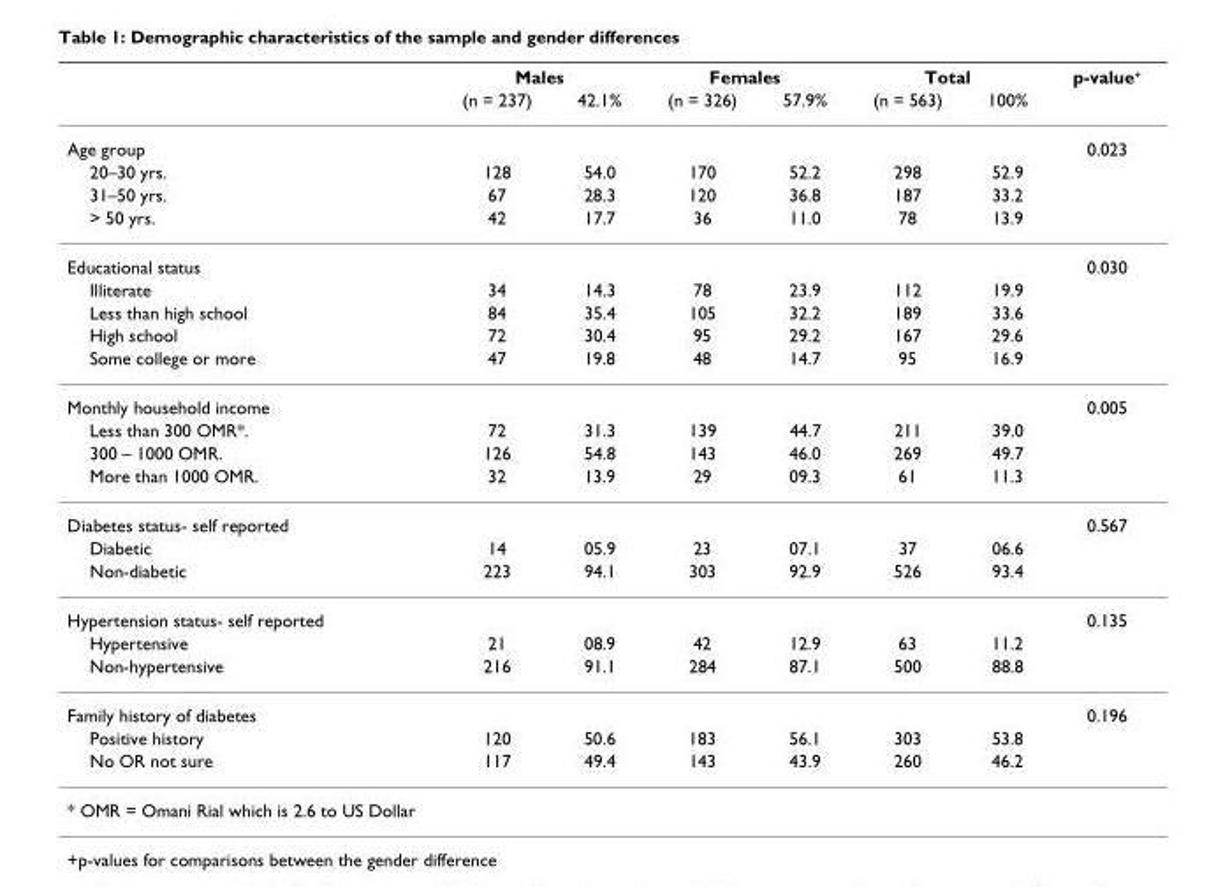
<table><thead><tr><td rowspan="2"></td><td colspan="2">Males</td><td colspan="2">Females</td><td colspan="2">Total</td><td rowspan="2">p-value<sup>+</sup></td></tr><tr><td>(n = 237)</td><td>42.1%</td><td>(n = 326)</td><td>57.9%</td><td>(n = 563)</td><td>100%</td></tr></thead><tbody><tr><td>Age group</td><td></td><td></td><td></td><td></td><td></td><td></td><td>0.023</td></tr><tr><td>20–30 yrs.</td><td>128</td><td>54.0</td><td>170</td><td>52.2</td><td>298</td><td>52.9</td><td></td></tr><tr><td>31–50 yrs.</td><td>67</td><td>28.3</td><td>120</td><td>36.8</td><td>187</td><td>33.2</td><td></td></tr><tr><td>&gt; 50 yrs.</td><td>42</td><td>17.7</td><td>36</td><td>11.0</td><td>78</td><td>13.9</td><td></td></tr><tr><td>Educational status</td><td></td><td></td><td></td><td></td><td></td><td></td><td>0.030</td></tr><tr><td>Illiterate</td><td>34</td><td>14.3</td><td>78</td><td>23.9</td><td>112</td><td>19.9</td><td></td></tr><tr><td>Less than high school</td><td>84</td><td>35.4</td><td>105</td><td>32.2</td><td>189</td><td>33.6</td><td></td></tr><tr><td>High school</td><td>72</td><td>30.4</td><td>95</td><td>29.2</td><td>167</td><td>29.6</td><td></td></tr><tr><td>Some college or more</td><td>47</td><td>19.8</td><td>48</td><td>14.7</td><td>95</td><td>16.9</td><td></td></tr><tr><td>Monthly household income</td><td></td><td></td><td></td><td></td><td></td><td></td><td>0.005</td></tr><tr><td>Less than 300 OMR*.</td><td>72</td><td>31.3</td><td>139</td><td>44.7</td><td>211</td><td>39.0</td><td></td></tr><tr><td>300 – 1000 OMR.</td><td>126</td><td>54.8</td><td>143</td><td>46.0</td><td>269</td><td>49.7</td><td></td></tr><tr><td>More than 1000 OMR.</td><td>32</td><td>13.9</td><td>29</td><td>09.3</td><td>61</td><td>11.3</td><td></td></tr><tr><td>Diabetes status- self reported</td><td></td><td></td><td></td><td></td><td></td><td></td><td>0.567</td></tr><tr><td>Diabetic</td><td>14</td><td>05.9</td><td>23</td><td>07.1</td><td>37</td><td>06.6</td><td></td></tr><tr><td>Non-diabetic</td><td>223</td><td>94.1</td><td>303</td><td>92.9</td><td>526</td><td>93.4</td><td></td></tr><tr><td>Hypertension status- self reported</td><td></td><td></td><td></td><td></td><td></td><td></td><td>0.135</td></tr><tr><td>Hypertensive</td><td>21</td><td>08.9</td><td>42</td><td>12.9</td><td>63</td><td>11.2</td><td></td></tr><tr><td>Non-hypertensive</td><td>216</td><td>91.1</td><td>284</td><td>87.1</td><td>500</td><td>88.8</td><td></td></tr><tr><td>Family history of diabetes</td><td></td><td></td><td></td><td></td><td></td><td></td><td>0.196</td></tr><tr><td>Positive history</td><td>120</td><td>50.6</td><td>183</td><td>56.1</td><td>303</td><td>53.8</td><td></td></tr><tr><td>No OR not sure</td><td>117</td><td>49.4</td><td>143</td><td>43.9</td><td>260</td><td>46.2</td><td></td></tr><tr><td colspan="8">* OMR = Omani Rial which is 2.6 to US Dollar</td></tr></tbody></table>